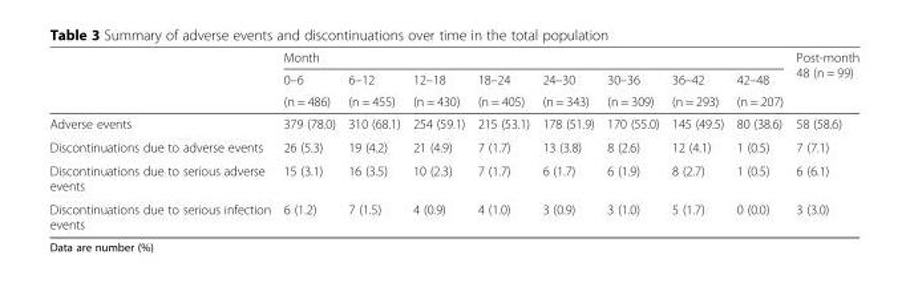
<table><thead><tr><td rowspan="3"></td><td colspan="8">Month</td><td rowspan="3">Post-month 48 (n = 99)</td></tr><tr><td rowspan="2">0–6 (n = 486)</td><td rowspan="2">6–12 (n = 455)</td><td rowspan="2">12–18 (n = 430)</td><td rowspan="2">18–24 (n = 405)</td><td rowspan="2">24–30 (n = 343)</td><td rowspan="2">30–36 (n = 309)</td><td rowspan="2">36–42 (n = 293)</td><td rowspan="2">42–48 (n = 207)</td></tr><tr></tr></thead><tbody><tr><td>Adverse events</td><td>379 (78.0)</td><td>310 (68.1)</td><td>254 (59.1)</td><td>215 (53.1)</td><td>178 (51.9)</td><td>170 (55.0)</td><td>145 (49.5)</td><td>80 (38.6)</td><td>58 (58.6)</td></tr><tr><td>Discontinuations due to adverse events</td><td>26 (5.3)</td><td>19 (4.2)</td><td>21 (4.9)</td><td>7 (1.7)</td><td>13 (3.8)</td><td>8 (2.6)</td><td>12 (4.1)</td><td>1 (0.5)</td><td>7 (7.1)</td></tr><tr><td>Discontinuations due to serious adverse events</td><td>15 (3.1)</td><td>16 (3.5)</td><td>10 (2.3)</td><td>7 (1.7)</td><td>6 (1.7)</td><td>6 (1.9)</td><td>8 (2.7)</td><td>1 (0.5)</td><td>6 (6.1)</td></tr><tr><td>Discontinuations due to serious infection events</td><td>6 (1.2)</td><td>7 (1.5)</td><td>4 (0.9)</td><td>4 (1.0)</td><td>3 (0.9)</td><td>3 (1.0)</td><td>5 (1.7)</td><td>0 (0.0)</td><td>3 (3.0)</td></tr></tbody></table>